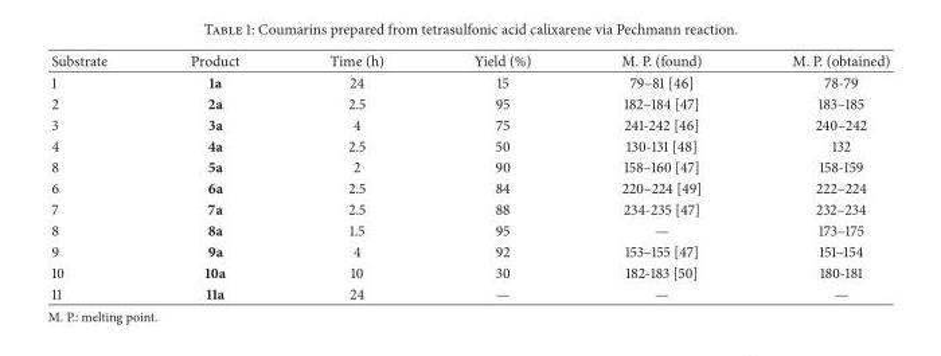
<table><thead><tr><td>Substrate</td><td>Product</td><td>Time (h)</td><td>Yield (%)</td><td>M. P. (found)</td><td>M. P. (obtained)</td></tr></thead><tbody><tr><td>1</td><td>1a</td><td>24</td><td>15</td><td>79–81 [46]</td><td>78-79</td></tr><tr><td>2</td><td>2a</td><td>2.5</td><td>95</td><td>182–184 [47]</td><td>183–185</td></tr><tr><td>3</td><td>3a</td><td>4</td><td>75</td><td>241-242 [46]</td><td>240–242</td></tr><tr><td>4</td><td>4a</td><td>2.5</td><td>50</td><td>130-131 [48]</td><td>132</td></tr><tr><td>8</td><td>5a</td><td>2</td><td>90</td><td>158–160 [47]</td><td>158-159</td></tr><tr><td>6</td><td>6a</td><td>2.5</td><td>84</td><td>220–224 [49]</td><td>222–224</td></tr><tr><td>7</td><td>7a</td><td>2.5</td><td>88</td><td>234-235 [47]</td><td>232–234</td></tr><tr><td>8</td><td>8a</td><td>1.5</td><td>95</td><td>—</td><td>173–175</td></tr><tr><td>9</td><td>9a</td><td>4</td><td>92</td><td>153–155 [47]</td><td>151–154</td></tr><tr><td>10</td><td>10a</td><td>10</td><td>30</td><td>182-183 [50]</td><td>180-181</td></tr><tr><td>11</td><td>11a</td><td>24</td><td>—</td><td>—</td><td>—</td></tr></tbody></table>